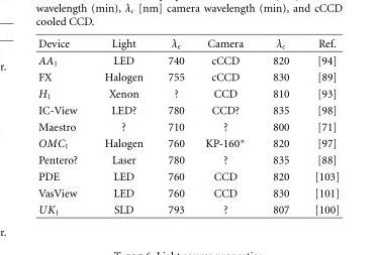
<table><thead><tr><td>Device</td><td>Light</td><td>λ<sub>e</sub></td><td>Camera</td><td>λ<sub>c</sub></td><td>Ref.</td></tr></thead><tbody><tr><td>AA<sub>1</sub></td><td>LED</td><td>740</td><td>cCCD</td><td>820</td><td>[94]</td></tr><tr><td>FX</td><td>Halogen</td><td>755</td><td>cCCD</td><td>830</td><td>[89]</td></tr><tr><td>H<sub>1</sub></td><td>Xenon</td><td>?</td><td>CCD</td><td>810</td><td>[93]</td></tr><tr><td>IC-View</td><td>LED?</td><td>780</td><td>CCD?</td><td>835</td><td>[98]</td></tr><tr><td>Maestro</td><td>?</td><td>710</td><td>?</td><td>800</td><td>[71]</td></tr><tr><td>OMC<sub>1</sub></td><td>Halogen</td><td>760</td><td>KP-160∗</td><td>820</td><td>[97]</td></tr><tr><td>Pentero?</td><td>Laser</td><td>780</td><td>?</td><td>835</td><td>[88]</td></tr><tr><td>PDE</td><td>LED</td><td>760</td><td>CCD</td><td>820</td><td>[103]</td></tr><tr><td>VasView</td><td>LED</td><td>760</td><td>CCD</td><td>830</td><td>[101]</td></tr><tr><td>UK<sub>1</sub></td><td>SLD</td><td>793</td><td>?</td><td>807</td><td>[100]</td></tr></tbody></table>